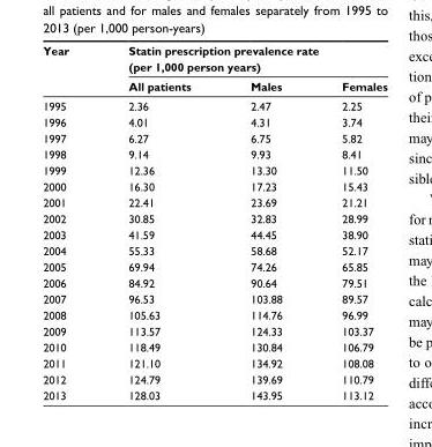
<table><thead><tr><td rowspan="2">Year</td><td colspan="3">Statin prescription prevalence rate (per 1,000 person years)</td></tr><tr><td>All patients</td><td>Males</td><td>Females</td></tr></thead><tbody><tr><td>1995</td><td>2.36</td><td>2.47</td><td>2.25</td></tr><tr><td>1996</td><td>4.01</td><td>4.31</td><td>3.74</td></tr><tr><td>1997</td><td>6.27</td><td>6.75</td><td>5.82</td></tr><tr><td>1998</td><td>9.14</td><td>9.93</td><td>8.41</td></tr><tr><td>1999</td><td>12.36</td><td>13.30</td><td>11.50</td></tr><tr><td>2000</td><td>16.30</td><td>17.23</td><td>15.43</td></tr><tr><td>2001</td><td>22.41</td><td>23.69</td><td>21.21</td></tr><tr><td>2002</td><td>30.85</td><td>32.83</td><td>28.99</td></tr><tr><td>2003</td><td>41.59</td><td>44.45</td><td>38.90</td></tr><tr><td>2004</td><td>55.33</td><td>58.68</td><td>52.17</td></tr><tr><td>2005</td><td>69.94</td><td>74.26</td><td>65.85</td></tr><tr><td>2006</td><td>84.92</td><td>90.64</td><td>79.51</td></tr><tr><td>2007</td><td>96.53</td><td>103.88</td><td>89.57</td></tr><tr><td>2008</td><td>105.63</td><td>114.76</td><td>96.99</td></tr><tr><td>2009</td><td>113.57</td><td>124.33</td><td>103.37</td></tr><tr><td>2010</td><td>118.49</td><td>130.84</td><td>106.79</td></tr><tr><td>2011</td><td>121.10</td><td>134.92</td><td>108.08</td></tr><tr><td>2012</td><td>124.79</td><td>139.69</td><td>110.79</td></tr><tr><td>2013</td><td>128.03</td><td>143.95</td><td>113.12</td></tr></tbody></table>